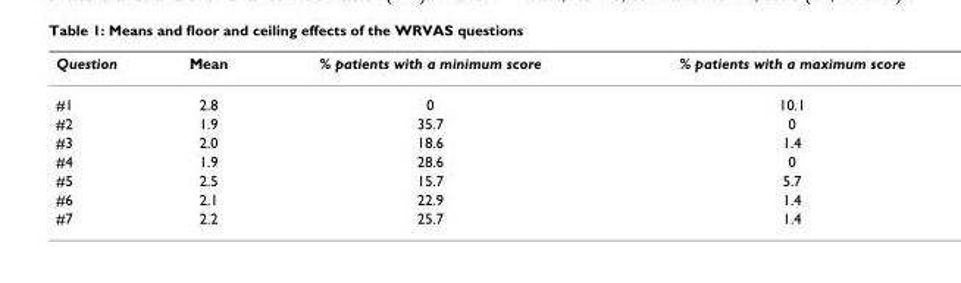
<table><thead><tr><td>Question</td><td>Mean</td><td>% patients with a minimum score</td><td>% patients with a maximum score</td></tr></thead><tbody><tr><td>#1</td><td>2.8</td><td>0</td><td>10.1</td></tr><tr><td>#2</td><td>1.9</td><td>35.7</td><td>0</td></tr><tr><td>#3</td><td>2.0</td><td>18.6</td><td>1.4</td></tr><tr><td>#4</td><td>1.9</td><td>28.6</td><td>0</td></tr><tr><td>#5</td><td>2.5</td><td>15.7</td><td>5.7</td></tr><tr><td>#6</td><td>2.1</td><td>22.9</td><td>1.4</td></tr><tr><td>#7</td><td>2.2</td><td>25.7</td><td>1.4</td></tr></tbody></table>